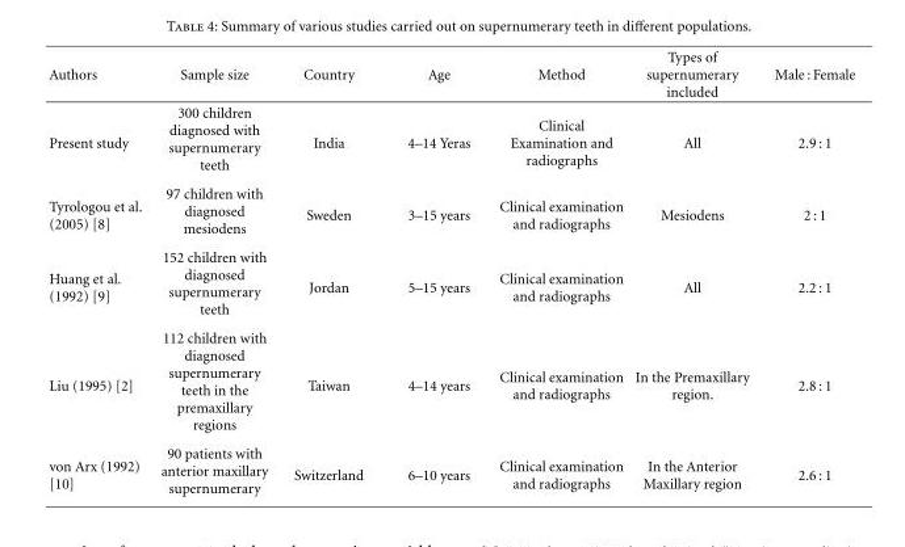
<table><thead><tr><td>Authors</td><td>Sample size</td><td>Country</td><td>Age</td><td>Method</td><td>Types of supernumerary included</td><td>Male : Female</td></tr></thead><tbody><tr><td>Present study</td><td>300 children diagnosed with supernumerary teeth</td><td>India</td><td>4–14 Yeras</td><td>Clinical Examination and radiographs</td><td>All</td><td>2.9 : 1</td></tr><tr><td>Tyrologou et al. (2005) [8]</td><td>97 children with diagnosed mesiodens</td><td>Sweden</td><td>3–15 years</td><td>Clinical examination and radiographs</td><td>Mesiodens</td><td>2 : 1</td></tr><tr><td>Huang et al. (1992) [9]</td><td>152 children with diagnosed supernumerary teeth</td><td>Jordan</td><td>5–15 years</td><td>Clinical examination and radiographs</td><td>All</td><td>2.2 : 1</td></tr><tr><td>Liu (1995) [2]</td><td>112 children with diagnosed supernumerary teeth in the premaxillary regions</td><td>Taiwan</td><td>4–14 years</td><td>Clinical examination and radiographs</td><td>In the Premaxillary region.</td><td>2.8 : 1</td></tr><tr><td>von Arx (1992) [10]</td><td>90 patients with anterior maxillary supernumerary</td><td>Switzerland</td><td>6–10 years</td><td>Clinical examination and radiographs</td><td>In the Anterior Maxillary region</td><td>2.6 : 1</td></tr></tbody></table>